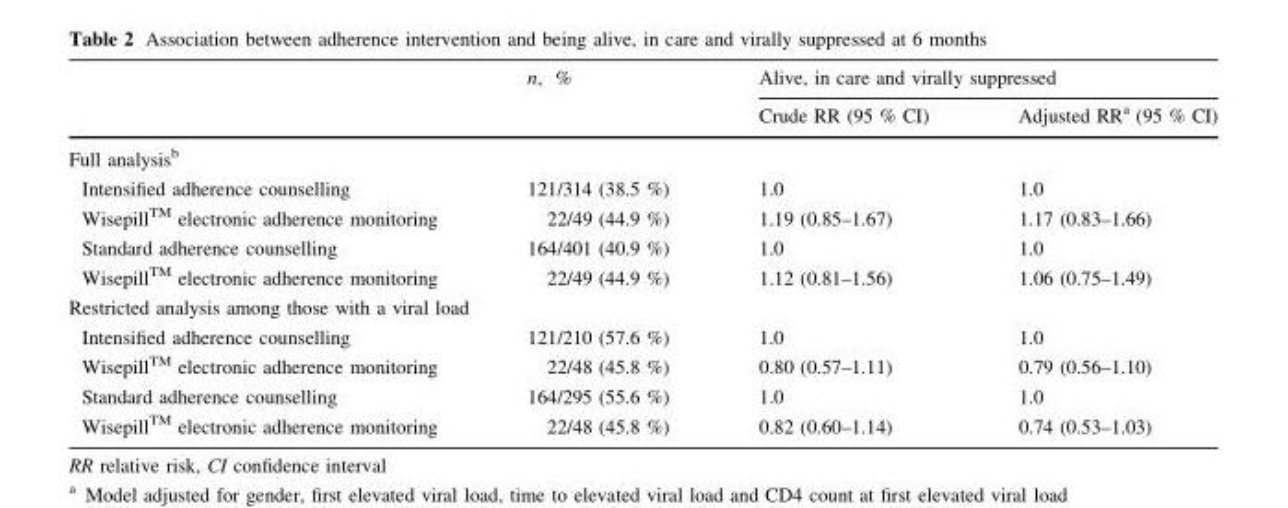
<table><thead><tr><td rowspan="2"></td><td rowspan="2">n, %</td><td colspan="2">Alive, in care and virally suppressed</td></tr><tr><td>Crude RR (95 % CI)</td><td>Adjusted RR<sup>a</sup> (95 % CI)</td></tr></thead><tbody><tr><td colspan="4">Full analysis<sup>b</sup></td></tr><tr><td>Intensified adherence counselling</td><td>121/314 (38.5 %)</td><td>1.0</td><td>1.0</td></tr><tr><td>WisepillTM electronic adherence monitoring</td><td>22/49 (44.9 %)</td><td>1.19 (0.85–1.67)</td><td>1.17 (0.83–1.66)</td></tr><tr><td>Standard adherence counselling</td><td>164/401 (40.9 %)</td><td>1.0</td><td>1.0</td></tr><tr><td>WisepillTM electronic adherence monitoring</td><td>22/49 (44.9 %)</td><td>1.12 (0.81–1.56)</td><td>1.06 (0.75–1.49)</td></tr><tr><td colspan="4">Restricted analysis among those with a viral load</td></tr><tr><td>Intensified adherence counselling</td><td>121/210 (57.6 %)</td><td>1.0</td><td>1.0</td></tr><tr><td>WisepillTM electronic adherence monitoring</td><td>22/48 (45.8 %)</td><td>0.80 (0.57–1.11)</td><td>0.79 (0.56–1.10)</td></tr><tr><td>Standard adherence counselling</td><td>164/295 (55.6 %)</td><td>1.0</td><td>1.0</td></tr><tr><td>WisepillTM electronic adherence monitoring</td><td>22/48 (45.8 %)</td><td>0.82 (0.60–1.14)</td><td>0.74 (0.53–1.03)</td></tr></tbody></table>